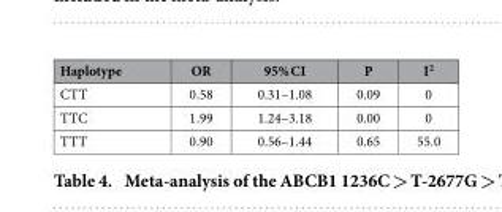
<table><thead><tr><td>Haplotype</td><td>OR</td><td>95% CI</td><td>P</td><td>I<sup>2</sup></td></tr></thead><tbody><tr><td>CTT</td><td>0.58</td><td>0.31–1.08</td><td>0.09</td><td>0</td></tr><tr><td>TTC</td><td>1.99</td><td>1.24–3.18</td><td>0.00</td><td>0</td></tr><tr><td>TTT</td><td>0.90</td><td>0.56–1.44</td><td>0.65</td><td>55.0</td></tr></tbody></table>